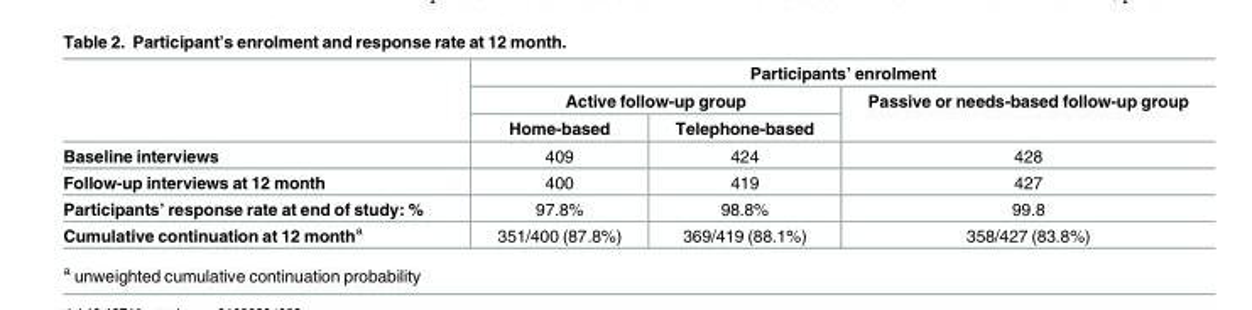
<table><thead><tr><td rowspan="3"></td><td colspan="3">Participants’ enrolment</td></tr><tr><td colspan="2">Active follow-up group</td><td rowspan="2">Passive or needs-based follow-up group</td></tr><tr><td>Home-based</td><td>Telephone-based</td></tr></thead><tbody><tr><td>Baseline interviews</td><td>409</td><td>424</td><td>428</td></tr><tr><td>Follow-up interviews at 12 month</td><td>400</td><td>419</td><td>427</td></tr><tr><td>Participants’ response rate at end of study: %</td><td>97.8%</td><td>98.8%</td><td>99.8</td></tr><tr><td>Cumulative continuation at 12 month<sup>a</sup></td><td>351/400 (87.8%)</td><td>369/419 (88.1%)</td><td>358/427 (83.8%)</td></tr></tbody></table>